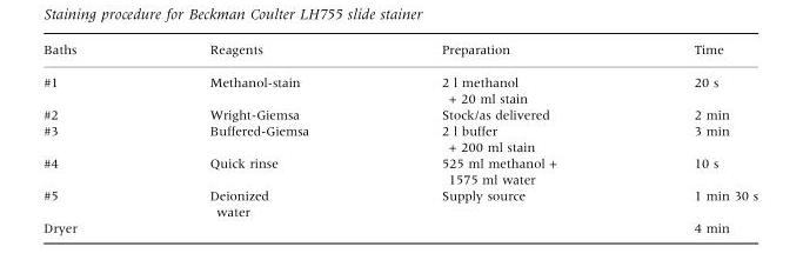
<table><thead><tr><td>Baths</td><td>Reagents</td><td>Preparation</td><td>Time</td></tr></thead><tbody><tr><td>#1</td><td>Methanol-stain</td><td>2 l methanol + 20 ml stain</td><td>20 s</td></tr><tr><td>#2</td><td>Wright-Giemsa</td><td>Stock/as delivered</td><td>2 min</td></tr><tr><td>#3</td><td>Buffered-Giemsa</td><td>2 l buffer + 200 ml stain</td><td>3 min</td></tr><tr><td>#4</td><td>Quick rinse</td><td>525 ml methanol + 1575 ml water</td><td>10 s</td></tr><tr><td>#5</td><td>Deionized water</td><td>Supply source</td><td>1 min 30 s</td></tr><tr><td>Dryer</td><td></td><td></td><td>4 min</td></tr></tbody></table>